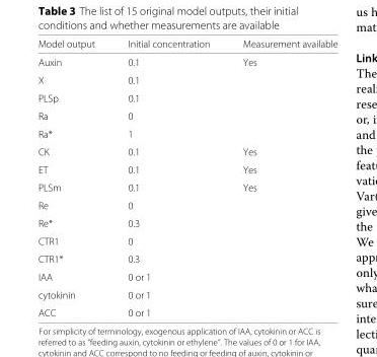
<table><thead><tr><td>Model output</td><td>Initial concentration</td><td>Measurement available</td></tr></thead><tbody><tr><td>Auxin</td><td>0.1</td><td>Yes</td></tr><tr><td>X</td><td>0.1</td><td></td></tr><tr><td>PLSp</td><td>0.1</td><td></td></tr><tr><td>Ra</td><td>0</td><td></td></tr><tr><td>Ra*</td><td>1</td><td></td></tr><tr><td>CK</td><td>0.1</td><td>Yes</td></tr><tr><td>ET</td><td>0.1</td><td>Yes</td></tr><tr><td>PLSm</td><td>0.1</td><td>Yes</td></tr><tr><td>Re</td><td>0</td><td></td></tr><tr><td>Re*</td><td>0.3</td><td></td></tr><tr><td>CTR1</td><td>0</td><td></td></tr><tr><td>CTR1*</td><td>0.3</td><td></td></tr><tr><td>IAA</td><td>0 or 1</td><td></td></tr><tr><td>cytokinin</td><td>0 or 1</td><td></td></tr><tr><td>ACC</td><td>0 or 1</td><td></td></tr></tbody></table>